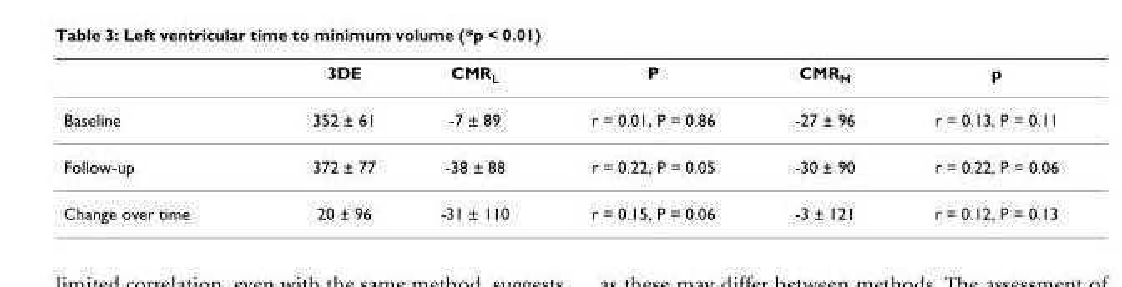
<table><thead><tr><td></td><td>3DE</td><td>CMR<sub>L</sub></td><td>P</td><td>CMR<sub>M</sub></td><td>p</td></tr></thead><tbody><tr><td>Baseline</td><td>352 ± 61</td><td>-7 ± 89</td><td>r = 0.01, P = 0.86</td><td>-27 ± 96</td><td>r = 0.13, P = 0.11</td></tr><tr><td>Follow-up</td><td>372 ± 77</td><td>-38 ± 88</td><td>r = 0.22, P = 0.05</td><td>-30 ± 90</td><td>r = 0.22, P = 0.06</td></tr><tr><td>Change over time</td><td>20 ± 96</td><td>-31 ± 110</td><td>r = 0.15, P = 0.06</td><td>-3 ± 121</td><td>r = 0.12, P = 0.13</td></tr></tbody></table>